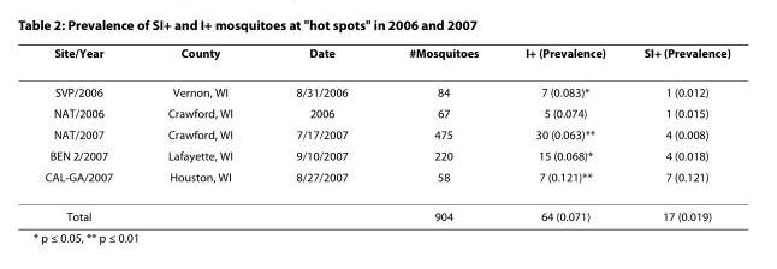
<table><thead><tr><td>Site/Year</td><td>County</td><td>Date</td><td>#Mosquitoes</td><td>I+ (Prevalence)</td><td>SI+ (Prevalence)</td></tr></thead><tbody><tr><td>SVP/2006</td><td>Vernon, WI</td><td>8/31/2006</td><td>84</td><td>7 (0.083)*</td><td>1 (0.012)</td></tr><tr><td>NAT/2006</td><td>Crawford, WI</td><td>2006</td><td>67</td><td>5 (0.074)</td><td>1 (0.015)</td></tr><tr><td>NAT/2007</td><td>Crawford, WI</td><td>7/17/2007</td><td>475</td><td>30 (0.063)**</td><td>4 (0.008)</td></tr><tr><td>BEN 2/2007</td><td>Lafayette, WI</td><td>9/10/2007</td><td>220</td><td>15 (0.068)*</td><td>4 (0.018)</td></tr><tr><td>CAL-GA/2007</td><td>Houston, WI</td><td>8/27/2007</td><td>58</td><td>7 (0.121)**</td><td>7 (0.121)</td></tr><tr><td>Total</td><td></td><td></td><td>904</td><td>64 (0.071)</td><td>17 (0.019)</td></tr></tbody></table>